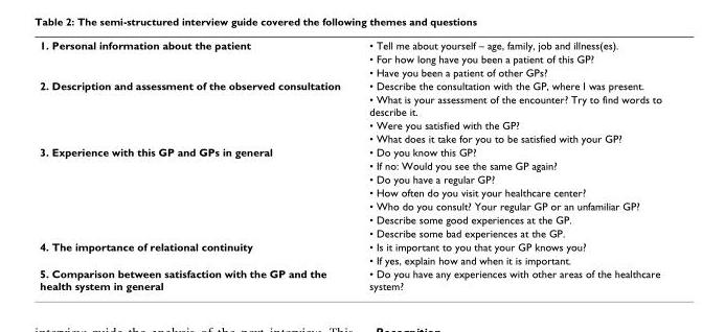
<table><tbody><tr><td rowspan="3">1. Personal information about the patient</td><td>• Tell me about yourself – age, family, job and illness(es).</td></tr><tr><td>• For how long have you been a patient of this GP?</td></tr><tr><td>• Have you been a patient of other GPs?</td></tr><tr><td rowspan="4">2. Description and assessment of the observed consultation</td><td>• Describe the consultation with the GP, where I was present.</td></tr><tr><td>• What is your assessment of the encounter? Try to find words to describe it.</td></tr><tr><td>• Were you satisfied with the GP?</td></tr><tr><td>• What does it take for you to be satisfied with your GP?</td></tr><tr><td rowspan="7">3. Experience with this GP and GPs in general</td><td>• Do you know this GP?</td></tr><tr><td>• If no: Would you see the same GP again?</td></tr><tr><td>• Do you have a regular GP?</td></tr><tr><td>• How often do you visit your healthcare center?</td></tr><tr><td>• Who do you consult? Your regular GP or an unfamiliar GP?</td></tr><tr><td>• Describe some good experiences at the GP.</td></tr><tr><td>• Describe some bad experiences at the GP.</td></tr><tr><td rowspan="2">4. The importance of relational continuity</td><td>• Is it important to you that your GP knows you?</td></tr><tr><td>• If yes, explain how and when it is important.</td></tr><tr><td>5. Comparison between satisfaction with the GP and the health system in general</td><td>• Do you have any experiences with other areas of the healthcare system?</td></tr></tbody></table>